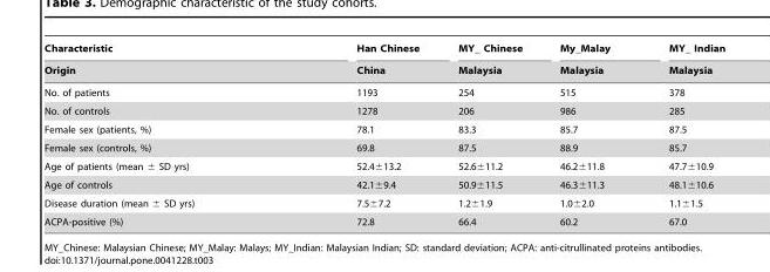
<table><thead><tr><td rowspan="2">Characteristic Origin</td><td rowspan="2">Han Chinese China</td><td rowspan="2">MY_ Chinese Malaysia</td><td rowspan="2">My_Malay Malaysia</td><td rowspan="2">MY_ Indian Malaysia</td></tr><tr></tr></thead><tbody><tr><td>No. of patients</td><td>1193</td><td>254</td><td>515</td><td>378</td></tr><tr><td>No. of controls</td><td>1278</td><td>206</td><td>986</td><td>285</td></tr><tr><td>Female sex (patients, %)</td><td>78.1</td><td>83.3</td><td>85.7</td><td>87.5</td></tr><tr><td>Female sex (controls, %)</td><td>69.8</td><td>87.5</td><td>88.9</td><td>85.7</td></tr><tr><td>Age of patients (mean ± SD yrs)</td><td>52.4±13.2</td><td>52.6±11.2</td><td>46.2±11.8</td><td>47.7±10.9</td></tr><tr><td>Age of controls</td><td>42.1±9.4</td><td>50.9±11.5</td><td>46.3±11.3</td><td>48.1±10.6</td></tr><tr><td>Disease duration (mean ± SD yrs)</td><td>7.5±7.2</td><td>1.2±1.9</td><td>1.0±2.0</td><td>1.1±1.5</td></tr><tr><td>ACPA-positive (%)</td><td>72.8</td><td>66.4</td><td>60.2</td><td>67.0</td></tr></tbody></table>